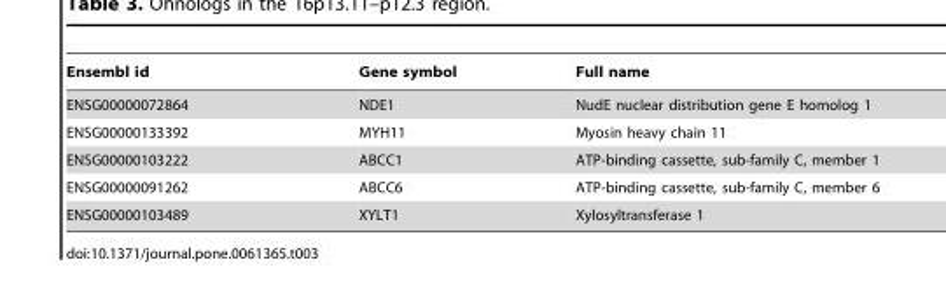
<table><thead><tr><td>Ensembl id</td><td>Gene symbol</td><td>Full name</td></tr></thead><tbody><tr><td>ENSG00000072864</td><td>NDE1</td><td>NudE nuclear distribution gene E homolog 1</td></tr><tr><td>ENSG00000133392</td><td>MYH11</td><td>Myosin heavy chain 11</td></tr><tr><td>ENSG00000103222</td><td>ABCC1</td><td>ATP-binding cassette, sub-family C, member 1</td></tr><tr><td>ENSG00000091262</td><td>ABCC6</td><td>ATP-binding cassette, sub-family C, member 6</td></tr><tr><td>ENSG00000103489</td><td>XYLT1</td><td>Xylosyltransferase 1</td></tr></tbody></table>